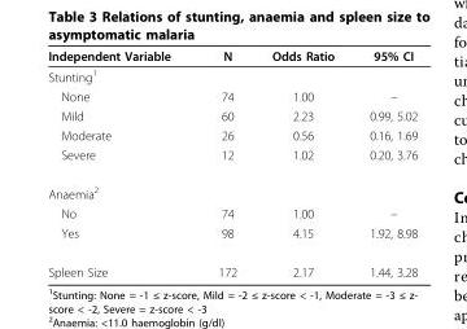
<table><thead><tr><td>Independent Variable</td><td>N</td><td>Odds Ratio</td><td>95% CI</td></tr></thead><tbody><tr><td colspan="4">Stunting<sup>1</sup></td></tr><tr><td>None</td><td>74</td><td>1.00</td><td>–</td></tr><tr><td>Mild</td><td>60</td><td>2.23</td><td>0.99, 5.02</td></tr><tr><td>Moderate</td><td>26</td><td>0.56</td><td>0.16, 1.69</td></tr><tr><td>Severe</td><td>12</td><td>1.02</td><td>0.20, 3.76</td></tr><tr><td colspan="4">Anaemia<sup>2</sup></td></tr><tr><td>No</td><td>74</td><td>1.00</td><td>–</td></tr><tr><td>Yes</td><td>98</td><td>4.15</td><td>1.92, 8.98</td></tr><tr><td>Spleen Size</td><td>172</td><td>2.17</td><td>1.44, 3.28</td></tr></tbody></table>